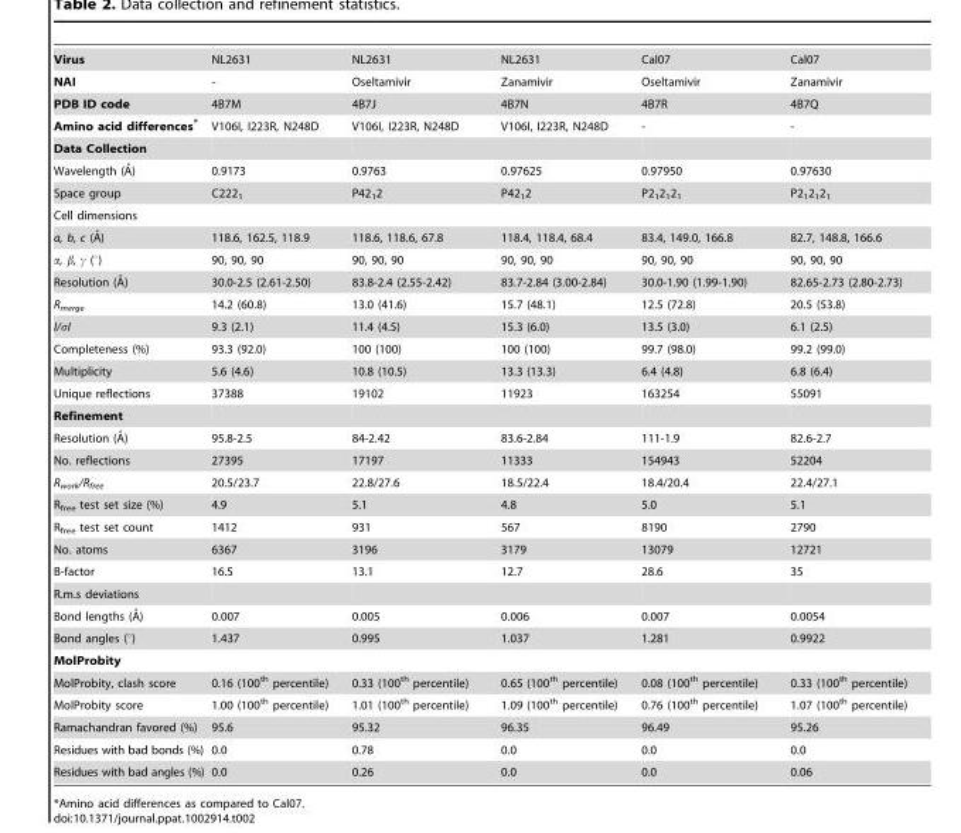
<table><tbody><tr><td>Virus</td><td>NL2631</td><td>NL2631</td><td>NL2631</td><td>Cal07</td><td>Cal07</td></tr><tr><td>NAI</td><td>-</td><td>Oseltamivir</td><td>Zanamivir</td><td>Oseltamivir</td><td>Zanamivir</td></tr><tr><td>PDB ID code</td><td>4B7M</td><td>4B7J</td><td>4B7N</td><td>4B7R</td><td>4B7Q</td></tr><tr><td>Amino acid differences*</td><td>V106I, I223R, N248D</td><td>V106I, I223R, N248D</td><td>V106I, I223R, N248D</td><td>-</td><td>-</td></tr><tr><td colspan="6">Data Collection</td></tr><tr><td>Wavelength (A˚)</td><td>0.9173</td><td>0.9763</td><td>0.97625</td><td>0.97950</td><td>0.97630</td></tr><tr><td>Space group</td><td>C222<sub>1</sub></td><td>P42<sub>1</sub>2</td><td>P42<sub>1</sub>2</td><td>P2<sub>1</sub>2<sub>1</sub>2<sub>1</sub></td><td>P2<sub>1</sub>2<sub>1</sub>2<sub>1</sub></td></tr><tr><td colspan="6">Cell dimensions</td></tr><tr><td>a, b, c (A˚)</td><td>118.6, 162.5, 118.9</td><td>118.6, 118.6, 67.8</td><td>118.4, 118.4, 68.4</td><td>83.4, 149.0, 166.8</td><td>82.7, 148.8, 166.6</td></tr><tr><td>α, β, γ (°)</td><td>90, 90, 90</td><td>90, 90, 90</td><td>90, 90, 90</td><td>90, 90, 90</td><td>90, 90, 90</td></tr><tr><td>Resolution (A˚)</td><td>30.0-2.5 (2.61-2.50)</td><td>83.8-2.4 (2.55-2.42)</td><td>83.7-2.84 (3.00-2.84)</td><td>30.0-1.90 (1.99-1.90)</td><td>82.65-2.73 (2.80-2.73)</td></tr><tr><td>R<sub>merge</sub></td><td>14.2 (60.8)</td><td>13.0 (41.6)</td><td>15.7 (48.1)</td><td>12.5 (72.8)</td><td>20.5 (53.8)</td></tr><tr><td>I/σI</td><td>9.3 (2.1)</td><td>11.4 (4.5)</td><td>15.3 (6.0)</td><td>13.5 (3.0)</td><td>6.1 (2.5)</td></tr><tr><td>Completeness (%)</td><td>93.3 (92.0)</td><td>100 (100)</td><td>100 (100)</td><td>99.7 (98.0)</td><td>99.2 (99.0)</td></tr><tr><td>Multiplicity</td><td>5.6 (4.6)</td><td>10.8 (10.5)</td><td>13.3 (13.3)</td><td>6.4 (4.8)</td><td>6.8 (6.4)</td></tr><tr><td>Unique reflections</td><td>37388</td><td>19102</td><td>11923</td><td>163254</td><td>55091</td></tr><tr><td colspan="6">Refinement</td></tr><tr><td>Resolution (A˚)</td><td>95.8-2.5</td><td>84-2.42</td><td>83.6-2.84</td><td>111-1.9</td><td>82.6-2.7</td></tr><tr><td>No. reflections</td><td>27395</td><td>17197</td><td>11333</td><td>154943</td><td>52204</td></tr><tr><td>R<sub>work</sub>/R<sub>free</sub></td><td>20.5/23.7</td><td>22.8/27.6</td><td>18.5/22.4</td><td>18.4/20.4</td><td>22.4/27.1</td></tr><tr><td>R<sub>free</sub> test set size (%)</td><td>4.9</td><td>5.1</td><td>4.8</td><td>5.0</td><td>5.1</td></tr><tr><td>R<sub>free</sub> test set count</td><td>1412</td><td>931</td><td>567</td><td>8190</td><td>2790</td></tr><tr><td>No. atoms</td><td>6367</td><td>3196</td><td>3179</td><td>13079</td><td>12721</td></tr><tr><td>B-factor</td><td>16.5</td><td>13.1</td><td>12.7</td><td>28.6</td><td>35</td></tr><tr><td colspan="6">R.m.s deviations</td></tr><tr><td>Bond lengths (A˚)</td><td>0.007</td><td>0.005</td><td>0.006</td><td>0.007</td><td>0.0054</td></tr><tr><td>Bond angles (°)</td><td>1.437</td><td>0.995</td><td>1.037</td><td>1.281</td><td>0.9922</td></tr><tr><td colspan="6">MolProbity</td></tr><tr><td>MolProbity, clash score</td><td>0.16 (100<sup>th</sup> percentile)</td><td>0.33 (100<sup>th</sup> percentile)</td><td>0.65 (100<sup>th</sup> percentile)</td><td>0.08 (100<sup>th</sup> percentile)</td><td>0.33 (100<sup>th</sup> percentile)</td></tr><tr><td>MolProbity score</td><td>1.00 (100<sup>th</sup> percentile)</td><td>1.01 (100<sup>th</sup> percentile)</td><td>1.09 (100<sup>th</sup> percentile)</td><td>0.76 (100<sup>th</sup> percentile)</td><td>1.07 (100<sup>th</sup> percentile)</td></tr><tr><td>Ramachandran favored (%)</td><td>95.6</td><td>95.32</td><td>96.35</td><td>96.49</td><td>95.26</td></tr><tr><td>Residues with bad bonds (%)</td><td>0.0</td><td>0.78</td><td>0.0</td><td>0.0</td><td>0.0</td></tr><tr><td>Residues with bad angles (%)</td><td>0.0</td><td>0.26</td><td>0.0</td><td>0.0</td><td>0.06</td></tr></tbody></table>